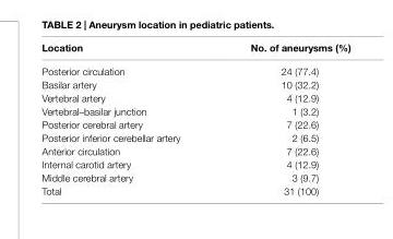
<table><thead><tr><td>location</td><td>no. of aneurysms (%)</td></tr></thead><tbody><tr><td>Posterior circulation</td><td>24 (77.4)</td></tr><tr><td>Basilar artery</td><td>10 (32.2)</td></tr><tr><td>Vertebral artery</td><td>4 (12.9)</td></tr><tr><td>Vertebral–basilar junction</td><td>1 (3.2)</td></tr><tr><td>Posterior cerebral artery</td><td>7 (22.6)</td></tr><tr><td>Posterior inferior cerebellar artery</td><td>2 (6.5)</td></tr><tr><td>Anterior circulation</td><td>7 (22.6)</td></tr><tr><td>Internal carotid artery</td><td>4 (12.9)</td></tr><tr><td>Middle cerebral artery</td><td>3 (9.7)</td></tr><tr><td>Total</td><td>31 (100)</td></tr></tbody></table>